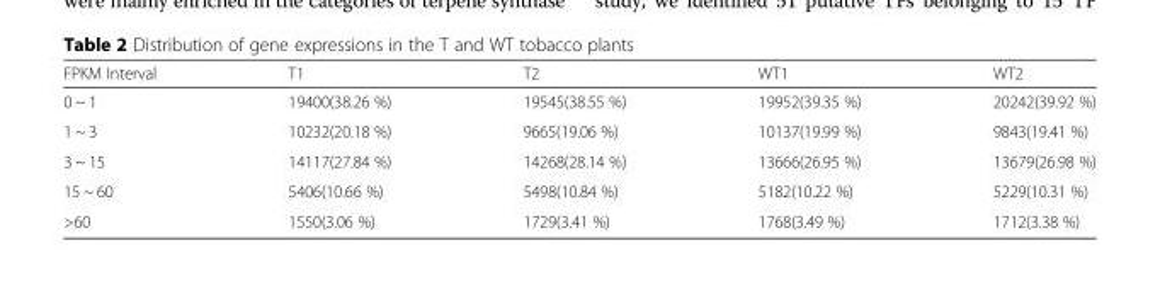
<table><thead><tr><td>FPKM Interval</td><td>T1</td><td>T2</td><td>WT1</td><td>WT2</td></tr></thead><tbody><tr><td>0 ~ 1</td><td>19400(38.26 %)</td><td>19545(38.55 %)</td><td>19952(39.35 %)</td><td>20242(39.92 %)</td></tr><tr><td>1 ~ 3</td><td>10232(20.18 %)</td><td>9665(19.06 %)</td><td>10137(19.99 %)</td><td>9843(19.41 %)</td></tr><tr><td>3 ~ 15</td><td>14117(27.84 %)</td><td>14268(28.14 %)</td><td>13666(26.95 %)</td><td>13679(26.98 %)</td></tr><tr><td>15 ~ 60</td><td>5406(10.66 %)</td><td>5498(10.84 %)</td><td>5182(10.22 %)</td><td>5229(10.31 %)</td></tr><tr><td>&gt;60</td><td>1550(3.06 %)</td><td>1729(3.41 %)</td><td>1768(3.49 %)</td><td>1712(3.38 %)</td></tr></tbody></table>